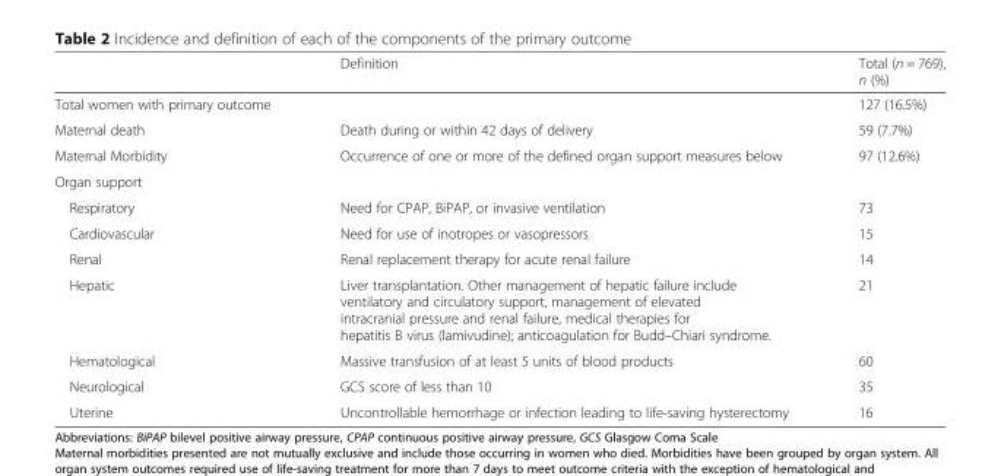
<table><thead><tr><td></td><td>Definition</td><td>Total (n = 769), n (%)</td></tr></thead><tbody><tr><td>Total women with primary outcome</td><td></td><td>127 (16.5%)</td></tr><tr><td>Maternal death</td><td>Death during or within 42 days of delivery</td><td>59 (7.7%)</td></tr><tr><td>Maternal Morbidity</td><td>Occurrence of one or more of the defined organ support measures below</td><td>97 (12.6%)</td></tr><tr><td colspan="3">Organ support</td></tr><tr><td>Respiratory</td><td>Need for CPAP, BiPAP, or invasive ventilation</td><td>73</td></tr><tr><td>Cardiovascular</td><td>Need for use of inotropes or vasopressors</td><td>15</td></tr><tr><td>Renal</td><td>Renal replacement therapy for acute renal failure</td><td>14</td></tr><tr><td>Hepatic</td><td>Liver transplantation. Other management of hepatic failure include ventilatory and circulatory support, management of elevated intracranial pressure and renal failure, medical therapies for hepatitis B virus (lamivudine); anticoagulation for Budd–Chiari syndrome.</td><td>21</td></tr><tr><td>Hematological</td><td>Massive transfusion of at least 5 units of blood products</td><td>60</td></tr><tr><td>Neurological</td><td>GCS score of less than 10</td><td>35</td></tr><tr><td>Uterine</td><td>Uncontrollable hemorrhage or infection leading to life-saving hysterectomy</td><td>16</td></tr></tbody></table>